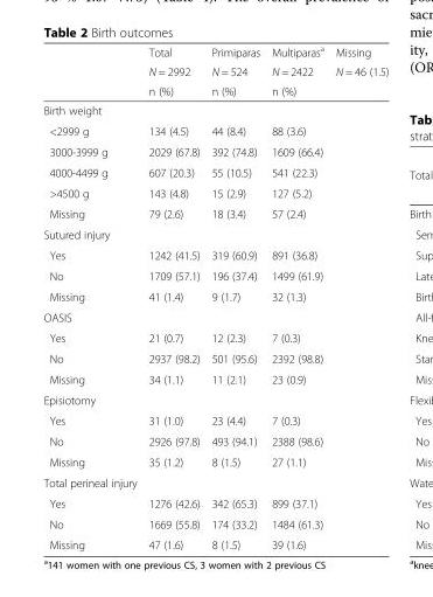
<table><thead><tr><td rowspan="3"></td><td rowspan="3">Total N = 2992 n (%)</td><td rowspan="3">Primiparas N = 524 n (%)</td><td rowspan="3">Multiparas<sup>a</sup> N = 2422 n (%)</td><td rowspan="3">Missing N = 46 (1.5)</td></tr><tr></tr><tr></tr></thead><tbody><tr><td colspan="5">Birth weight</td></tr><tr><td>&lt;2999 g</td><td>134 (4.5)</td><td>44 (8.4)</td><td>88 (3.6)</td><td></td></tr><tr><td>3000-3999 g</td><td>2029 (67.8)</td><td>392 (74.8)</td><td>1609 (66.4)</td><td></td></tr><tr><td>4000-4499 g</td><td>607 (20.3)</td><td>55 (10.5)</td><td>541 (22.3)</td><td></td></tr><tr><td>&gt;4500 g</td><td>143 (4.8)</td><td>15 (2.9)</td><td>127 (5.2)</td><td></td></tr><tr><td>Missing</td><td>79 (2.6)</td><td>18 (3.4)</td><td>57 (2.4)</td><td></td></tr><tr><td colspan="5">Sutured injury</td></tr><tr><td>Yes</td><td>1242 (41.5)</td><td>319 (60.9)</td><td>891 (36.8)</td><td></td></tr><tr><td>No</td><td>1709 (57.1)</td><td>196 (37.4)</td><td>1499 (61.9)</td><td></td></tr><tr><td>Missing</td><td>41 (1.4)</td><td>9 (1.7)</td><td>32 (1.3)</td><td></td></tr><tr><td colspan="5">OASIS</td></tr><tr><td>Yes</td><td>21 (0.7)</td><td>12 (2.3)</td><td>7 (0.3)</td><td></td></tr><tr><td>No</td><td>2937 (98.2)</td><td>501 (95.6)</td><td>2392 (98.8)</td><td></td></tr><tr><td>Missing</td><td>34 (1.1)</td><td>11 (2.1)</td><td>23 (0.9)</td><td></td></tr><tr><td colspan="5">Episiotomy</td></tr><tr><td>Yes</td><td>31 (1.0)</td><td>23 (4.4)</td><td>7 (0.3)</td><td></td></tr><tr><td>No</td><td>2926 (97.8)</td><td>493 (94.1)</td><td>2388 (98.6)</td><td></td></tr><tr><td>Missing</td><td>35 (1.2)</td><td>8 (1.5)</td><td>27 (1.1)</td><td></td></tr><tr><td colspan="5">Total perineal injury</td></tr><tr><td>Yes</td><td>1276 (42.6)</td><td>342 (65.3)</td><td>899 (37.1)</td><td></td></tr><tr><td>No</td><td>1669 (55.8)</td><td>174 (33.2)</td><td>1484 (61.3)</td><td></td></tr><tr><td>Missing</td><td>47 (1.6)</td><td>8 (1.5)</td><td>39 (1.6)</td><td></td></tr></tbody></table>